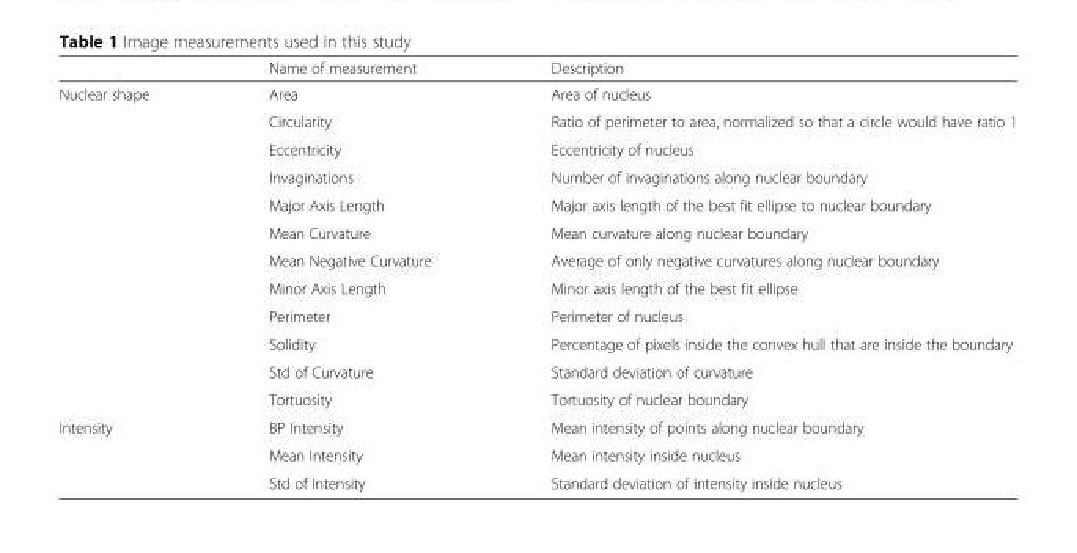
<table><thead><tr><td></td><td>Name of measurement</td><td>Description</td></tr></thead><tbody><tr><td rowspan="12">Nuclear shape</td><td>Area</td><td>Area of nucleus</td></tr><tr><td>Circularity</td><td>Ratio of perimeter to area, normalized so that a circle would have ratio 1</td></tr><tr><td>Eccentricity</td><td>Eccentricity of nucleus</td></tr><tr><td>Invaginations</td><td>Number of invaginations along nuclear boundary</td></tr><tr><td>Major Axis Length</td><td>Major axis length of the best fit ellipse to nuclear boundary</td></tr><tr><td>Mean Curvature</td><td>Mean curvature along nuclear boundary</td></tr><tr><td>Mean Negative Curvature</td><td>Average of only negative curvatures along nuclear boundary</td></tr><tr><td>Minor Axis Length</td><td>Minor axis length of the best fit ellipse</td></tr><tr><td>Perimeter</td><td>Perimeter of nucleus</td></tr><tr><td>Solidity</td><td>Percentage of pixels inside the convex hull that are inside the boundary</td></tr><tr><td>Std of Curvature</td><td>Standard deviation of curvature</td></tr><tr><td>Tortuosity</td><td>Tortuosity of nuclear boundary</td></tr><tr><td rowspan="3">Intensity</td><td>BP Intensity</td><td>Mean intensity of points along nuclear boundary</td></tr><tr><td>Mean Intensity</td><td>Mean intensity inside nucleus</td></tr><tr><td>Std of Intensity</td><td>Standard deviation of intensity inside nucleus</td></tr></tbody></table>